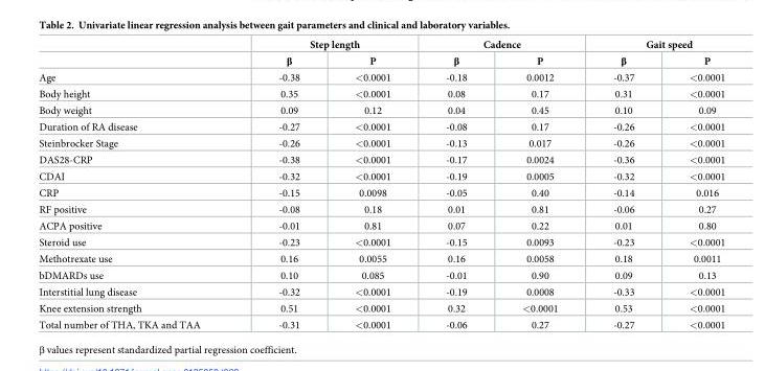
<table><thead><tr><td rowspan="2"></td><td colspan="2">Step length</td><td colspan="2">Cadence</td><td colspan="2">Gait speed</td></tr><tr><td>β</td><td>P</td><td>β</td><td>P</td><td>β</td><td>P</td></tr></thead><tbody><tr><td>Age</td><td>-0.38</td><td>&lt;0.0001</td><td>-0.18</td><td>0.0012</td><td>-0.37</td><td>&lt;0.0001</td></tr><tr><td>Body height</td><td>0.35</td><td>&lt;0.0001</td><td>0.08</td><td>0.17</td><td>0.31</td><td>&lt;0.0001</td></tr><tr><td>Body weight</td><td>0.09</td><td>0.12</td><td>0.04</td><td>0.45</td><td>0.10</td><td>0.09</td></tr><tr><td>Duration of RA disease</td><td>-0.27</td><td>&lt;0.0001</td><td>-0.08</td><td>0.17</td><td>-0.26</td><td>&lt;0.0001</td></tr><tr><td>Steinbrocker Stage</td><td>-0.26</td><td>&lt;0.0001</td><td>-0.13</td><td>0.017</td><td>-0.26</td><td>&lt;0.0001</td></tr><tr><td>DAS28-CRP</td><td>-0.38</td><td>&lt;0.0001</td><td>-0.17</td><td>0.0024</td><td>-0.36</td><td>&lt;0.0001</td></tr><tr><td>CDAI</td><td>-0.32</td><td>&lt;0.0001</td><td>-0.19</td><td>0.0005</td><td>-0.32</td><td>&lt;0.0001</td></tr><tr><td>CRP</td><td>-0.15</td><td>0.0098</td><td>-0.05</td><td>0.40</td><td>-0.14</td><td>0.016</td></tr><tr><td>RF positive</td><td>-0.08</td><td>0.18</td><td>0.01</td><td>0.81</td><td>-0.06</td><td>0.27</td></tr><tr><td>ACPA positive</td><td>-0.01</td><td>0.81</td><td>0.07</td><td>0.22</td><td>0.01</td><td>0.80</td></tr><tr><td>Steroid use</td><td>-0.23</td><td>&lt;0.0001</td><td>-0.15</td><td>0.0093</td><td>-0.23</td><td>&lt;0.0001</td></tr><tr><td>Methotrexate use</td><td>0.16</td><td>0.0055</td><td>0.16</td><td>0.0058</td><td>0.18</td><td>0.0011</td></tr><tr><td>bDMARDs use</td><td>0.10</td><td>0.085</td><td>-0.01</td><td>0.90</td><td>0.09</td><td>0.13</td></tr><tr><td>Interstitial lung disease</td><td>-0.32</td><td>&lt;0.0001</td><td>-0.19</td><td>0.0008</td><td>-0.33</td><td>&lt;0.0001</td></tr><tr><td>Knee extension strength</td><td>0.51</td><td>&lt;0.0001</td><td>0.32</td><td>&lt;0.0001</td><td>0.53</td><td>&lt;0.0001</td></tr><tr><td>Total number of THA, TKA and TAA</td><td>-0.31</td><td>&lt;0.0001</td><td>-0.06</td><td>0.27</td><td>-0.27</td><td>&lt;0.0001</td></tr></tbody></table>